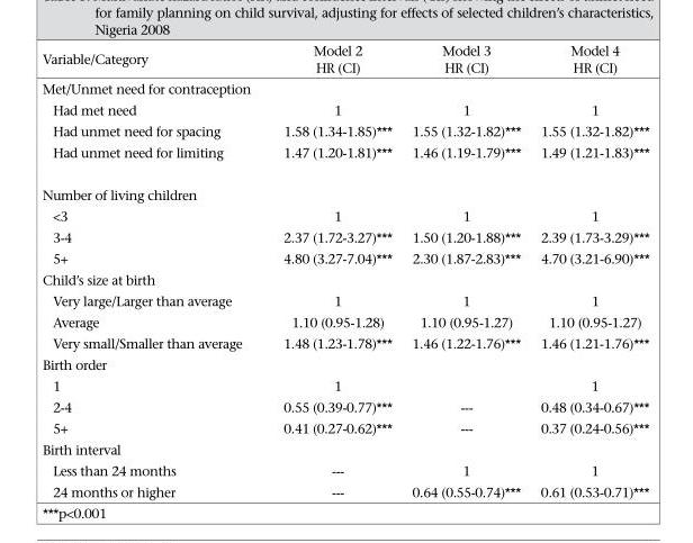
<table><thead><tr><td>Variable/Category</td><td>Model 2 HR (CI)</td><td>Model 3 HR (CI)</td><td>Model 4 HR (CI)</td></tr></thead><tbody><tr><td colspan="4">Met/Unmet need for contraception</td></tr><tr><td>Had met need</td><td>1</td><td>1</td><td>1</td></tr><tr><td>Had unmet need for spacing</td><td>1.58 (1.34-1.85)***</td><td>1.55 (1.32-1.82)***</td><td>1.55 (1.32-1.82)***</td></tr><tr><td>Had unmet need for limiting</td><td>1.47 (1.20-1.81)***</td><td>1.46 (1.19-1.79)***</td><td>1.49 (1.21-1.83)***</td></tr><tr><td colspan="4">Number of living children</td></tr><tr><td>&lt;3</td><td>1</td><td>1</td><td>1</td></tr><tr><td>3-4</td><td>2.37 (1.72-3.27)***</td><td>1.50 (1.20-1.88)***</td><td>2.39 (1.73-3.29)***</td></tr><tr><td>5+</td><td>4.80 (3.27-7.04)***</td><td>2.30 (1.87-2.83)***</td><td>4.70 (3.21-6.90)***</td></tr><tr><td colspan="4">Child’s size at birth</td></tr><tr><td>Very large/Larger than average</td><td>1</td><td>1</td><td>1</td></tr><tr><td>Average</td><td>1.10 (0.95-1.28)</td><td>1.10 (0.95-1.27)</td><td>1.10 (0.95-1.27)</td></tr><tr><td>Very small/Smaller than average</td><td>1.48 (1.23-1.78)***</td><td>1.46 (1.22-1.76)***</td><td>1.46 (1.21-1.76)***</td></tr><tr><td colspan="4">Birth order</td></tr><tr><td>1</td><td>1</td><td></td><td>1</td></tr><tr><td>2-4</td><td>0.55 (0.39-0.77)***</td><td>---</td><td>0.48 (0.34-0.67)***</td></tr><tr><td>5+</td><td>0.41 (0.27-0.62)***</td><td>---</td><td>0.37 (0.24-0.56)***</td></tr><tr><td colspan="4">Birth interval</td></tr><tr><td>Less than 24 months</td><td>---</td><td>1</td><td>1</td></tr><tr><td>24 months or higher</td><td>---</td><td>0.64 (0.55-0.74)***</td><td>0.61 (0.53-0.71)***</td></tr></tbody></table>